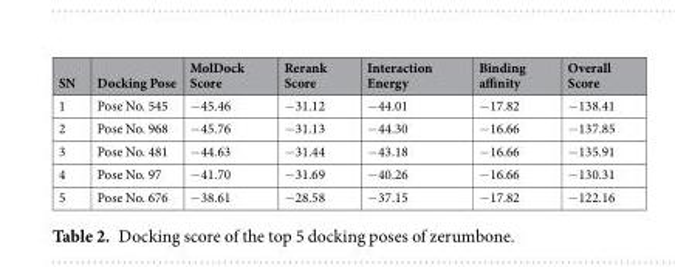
<table><thead><tr><td>SN</td><td>Docking Pose</td><td>MolDock Score</td><td>Rerank Score</td><td>Interaction Energy</td><td>Binding affinity</td><td>Overall Score</td></tr></thead><tbody><tr><td>1</td><td>Pose No. 545</td><td>−45.46</td><td>−31.12</td><td>−44.01</td><td>−17.82</td><td>−138.41</td></tr><tr><td>2</td><td>Pose No. 968</td><td>−45.76</td><td>−31.13</td><td>−44.30</td><td>−16.66</td><td>−137.85</td></tr><tr><td>3</td><td>Pose No. 481</td><td>−44.63</td><td>−31.44</td><td>−43.18</td><td>−16.66</td><td>−135.91</td></tr><tr><td>4</td><td>Pose No. 97</td><td>−41.70</td><td>−31.69</td><td>−40.26</td><td>−16.66</td><td>−130.31</td></tr><tr><td>5</td><td>Pose No. 676</td><td>−38.61</td><td>−28.58</td><td>−37.15</td><td>−17.82</td><td>−122.16</td></tr></tbody></table>